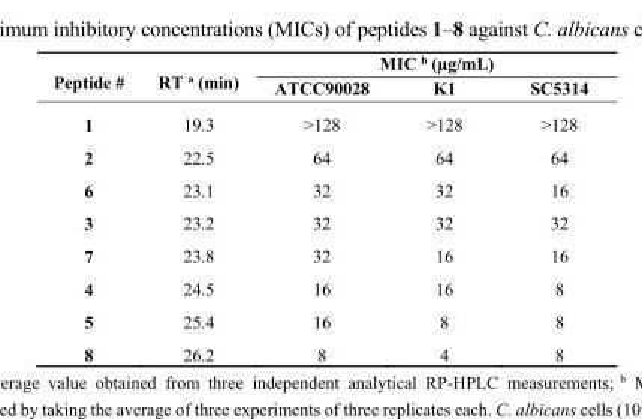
<table><thead><tr><td rowspan="2">Peptide #</td><td rowspan="2">RT <sup>a</sup> (min)</td><td colspan="3">MIC <sup>b</sup> (µg/mL)</td></tr><tr><td>ATCC90028</td><td>K1</td><td>SC5314</td></tr></thead><tbody><tr><td>1</td><td>19.3</td><td>&gt;128</td><td>&gt;128</td><td>&gt;128</td></tr><tr><td>2</td><td>22.5</td><td>64</td><td>64</td><td>64</td></tr><tr><td>6</td><td>23.1</td><td>32</td><td>32</td><td>16</td></tr><tr><td>3</td><td>23.2</td><td>32</td><td>32</td><td>32</td></tr><tr><td>7</td><td>23.8</td><td>32</td><td>16</td><td>16</td></tr><tr><td>4</td><td>24.5</td><td>16</td><td>16</td><td>8</td></tr><tr><td>5</td><td>25.4</td><td>16</td><td>8</td><td>8</td></tr><tr><td>8</td><td>26.2</td><td>8</td><td>4</td><td>8</td></tr></tbody></table>